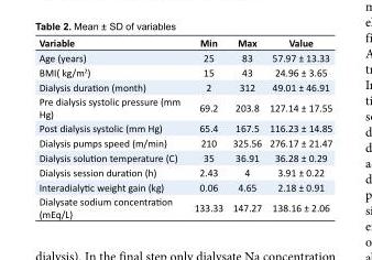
<table><tbody><tr><td>Variable</td><td>Min</td><td>Max</td><td>Value</td></tr><tr><td>Age (years)</td><td>25</td><td>83</td><td>57.97 ± 13.33</td></tr><tr><td>BMI( kg/m<sup>2</sup>)</td><td>15</td><td>43</td><td>24.96 ± 3.65</td></tr><tr><td>Dialysis duration (month)</td><td>2</td><td>312</td><td>49.01 ± 46.91</td></tr><tr><td>Pre dialysis systolic pressure (mm Hg)</td><td>69.2</td><td>203.8</td><td>127.14 ± 17.55</td></tr><tr><td>Post dialysis systolic (mm Hg)</td><td>65.4</td><td>167.5</td><td>116.23 ± 14.85</td></tr><tr><td>Dialysis pumps speed (m/min)</td><td>210</td><td>325.56</td><td>276.17 ± 21.47</td></tr><tr><td>Dialysis solution temperature (C)</td><td>35</td><td>36.91</td><td>36.28 ± 0.29</td></tr><tr><td>Dialysis session duration (h)</td><td>2.43</td><td>4</td><td>3.91 ± 0.22</td></tr><tr><td>Interadialytic weight gain (kg)</td><td>0.06</td><td>4.65</td><td>2.18 ± 0.91</td></tr><tr><td>Dialysate sodium concentration (mEq/L)</td><td>133.33</td><td>147.27</td><td>138.16 ± 2.06</td></tr></tbody></table>